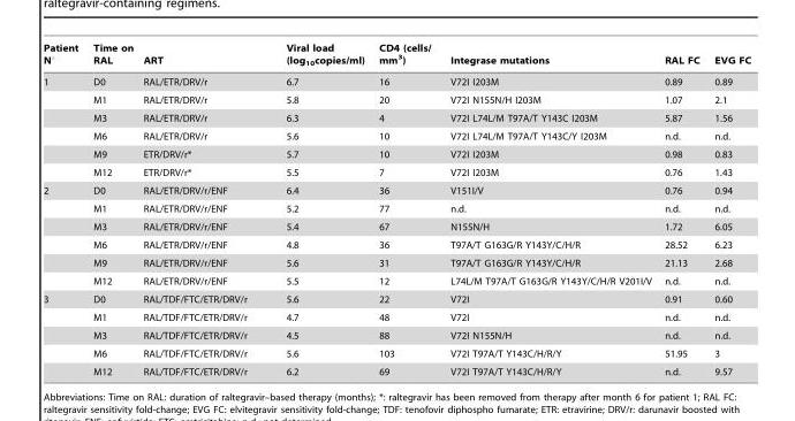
<table><thead><tr><td>Patient N°</td><td>Time on RAL</td><td>ART</td><td>Viral load (log<sub>10</sub>copies/ml)</td><td>CD4 (cells/ mm<sup>3</sup>)</td><td>Integrase mutations</td><td>RAL FC</td><td>EVG FC</td></tr></thead><tbody><tr><td rowspan="6">1</td><td>D0</td><td>RAL/ETR/DRV/r</td><td>6.7</td><td>16</td><td>V72I I203M</td><td>0.89</td><td>0.89</td></tr><tr><td>M1</td><td>RAL/ETR/DRV/r</td><td>5.8</td><td>20</td><td>V72I N155N/H I203M</td><td>1.07</td><td>2.1</td></tr><tr><td>M3</td><td>RAL/ETR/DRV/r</td><td>6.3</td><td>4</td><td>V72I L74L/M T97A/T Y143C I203M</td><td>5.87</td><td>1.56</td></tr><tr><td>M6</td><td>RAL/ETR/DRV/r</td><td>5.6</td><td>10</td><td>V72I L74L/M T97A/T Y143C/Y I203M</td><td>n.d.</td><td>n.d.</td></tr><tr><td>M9</td><td>ETR/DRV/r*</td><td>5.7</td><td>10</td><td>V72I I203M</td><td>0.98</td><td>0.83</td></tr><tr><td>M12</td><td>ETR/DRV/r*</td><td>5.5</td><td>7</td><td>V72I I203M</td><td>0.76</td><td>1.43</td></tr><tr><td rowspan="6">2</td><td>D0</td><td>RAL/ETR/DRV/r/ENF</td><td>6.4</td><td>36</td><td>V151I/V</td><td>0.76</td><td>0.94</td></tr><tr><td>M1</td><td>RAL/ETR/DRV/r/ENF</td><td>5.2</td><td>77</td><td>n.d.</td><td>n.d.</td><td>n.d.</td></tr><tr><td>M3</td><td>RAL/ETR/DRV/r/ENF</td><td>5.4</td><td>67</td><td>N155N/H</td><td>1.72</td><td>6.05</td></tr><tr><td>M6</td><td>RAL/ETR/DRV/r/ENF</td><td>4.8</td><td>36</td><td>T97A/T G163G/R Y143Y/C/H/R</td><td>28.52</td><td>6.23</td></tr><tr><td>M9</td><td>RAL/ETR/DRV/r/ENF</td><td>5.6</td><td>31</td><td>T97A/T G163G/R Y143Y/C/H/R</td><td>21.13</td><td>2.68</td></tr><tr><td>M12</td><td>RAL/ETR/DRV/r/ENF</td><td>5.5</td><td>12</td><td>L74L/M T97A/T G163G/R Y143Y/C/H/R V201I/V</td><td>n.d.</td><td>n.d.</td></tr><tr><td rowspan="5">3</td><td>D0</td><td>RAL/TDF/FTC/ETR/DRV/r</td><td>5.6</td><td>22</td><td>V72I</td><td>0.91</td><td>0.60</td></tr><tr><td>M1</td><td>RAL/TDF/FTC/ETR/DRV/r</td><td>4.7</td><td>48</td><td>V72I</td><td>n.d.</td><td>n.d.</td></tr><tr><td>M3</td><td>RAL/TDF/FTC/ETR/DRV/r</td><td>4.5</td><td>88</td><td>V72I N155N/H</td><td>n.d.</td><td>n.d.</td></tr><tr><td>M6</td><td>RAL/TDF/FTC/ETR/DRV/r</td><td>5.6</td><td>103</td><td>V72I T97A/T Y143C/H/R/Y</td><td>51.95</td><td>3</td></tr><tr><td>M12</td><td>RAL/TDF/FTC/ETR/DRV/r</td><td>6.2</td><td>69</td><td>V72I T97A/T Y143C/H/R/Y</td><td>n.d.</td><td>9.57</td></tr></tbody></table>